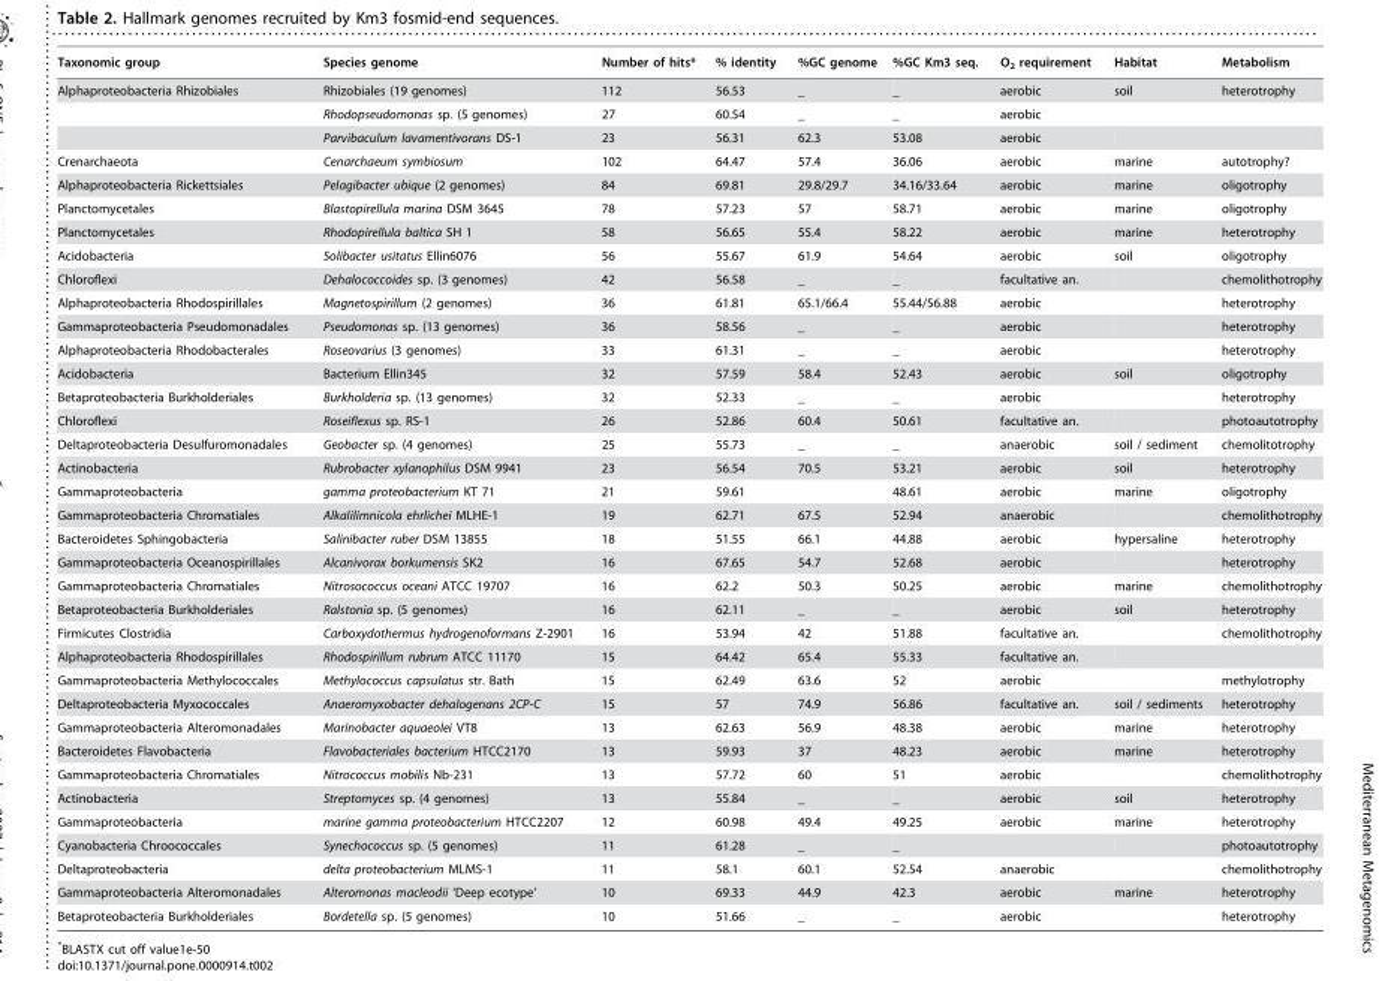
<table><thead><tr><td>Taxonomic group</td><td>Species genome</td><td>Number of hits*</td><td>% identity</td><td>%GC genome</td><td>%GC Km3 seq.</td><td>O<sub>2</sub> requirement</td><td>Habitat</td><td>Metabolism</td></tr></thead><tbody><tr><td rowspan="3">Alphaproteobacteria Rhizobiales</td><td>Rhizobiales (19 genomes)</td><td>112</td><td>56.53</td><td>_</td><td>_</td><td>aerobic</td><td>soil</td><td>heterotrophy</td></tr><tr><td>Rhodopseudomonas sp. (5 genomes)</td><td>27</td><td>60.54</td><td>_</td><td>_</td><td>aerobic</td><td></td><td></td></tr><tr><td>Parvibaculum lavamentivorans DS-1</td><td>23</td><td>56.31</td><td>62.3</td><td>53.08</td><td>aerobic</td><td></td><td></td></tr><tr><td>Crenarchaeota</td><td>Cenarchaeum symbiosum</td><td>102</td><td>64.47</td><td>57.4</td><td>36.06</td><td>aerobic</td><td>marine</td><td>autotrophy?</td></tr><tr><td>Alphaproteobacteria Rickettsiales</td><td>Pelagibacter ubique (2 genomes)</td><td>84</td><td>69.81</td><td>29.8/29.7</td><td>34.16/33.64</td><td>aerobic</td><td>marine</td><td>oligotrophy</td></tr><tr><td>Planctomycetales</td><td>Blastopirellula marina DSM 3645</td><td>78</td><td>57.23</td><td>57</td><td>58.71</td><td>aerobic</td><td>marine</td><td>oligotrophy</td></tr><tr><td>Planctomycetales</td><td>Rhodopirellula baltica SH 1</td><td>58</td><td>56.65</td><td>55.4</td><td>58.22</td><td>aerobic</td><td>marine</td><td>heterotrophy</td></tr><tr><td>Acidobacteria</td><td>Solibacter usitatus Ellin6076</td><td>56</td><td>55.67</td><td>61.9</td><td>54.64</td><td>aerobic</td><td>soil</td><td>oligotrophy</td></tr><tr><td>Chloroflexi</td><td>Dehalococcoides sp. (3 genomes)</td><td>42</td><td>56.58</td><td>_</td><td>_</td><td>facultative an.</td><td></td><td>chemolithotrophy</td></tr><tr><td>Alphaproteobacteria Rhodospirillales</td><td>Magnetospirillum (2 genomes)</td><td>36</td><td>61.81</td><td>65.1/66.4</td><td>55.44/56.88</td><td>aerobic</td><td></td><td>heterotrophy</td></tr><tr><td>Gammaproteobacteria Pseudomonadales</td><td>Pseudomonas sp. (13 genomes)</td><td>36</td><td>58.56</td><td>_</td><td>_</td><td>aerobic</td><td></td><td>heterotrophy</td></tr><tr><td>Alphaproteobacteria Rhodobacterales</td><td>Roseovarius (3 genomes)</td><td>33</td><td>61.31</td><td>_</td><td>_</td><td>aerobic</td><td></td><td>heterotrophy</td></tr><tr><td>Acidobacteria</td><td>Bacterium Ellin345</td><td>32</td><td>57.59</td><td>58.4</td><td>52.43</td><td>aerobic</td><td>soil</td><td>oligotrophy</td></tr><tr><td>Betaproteobacteria Burkholderiales</td><td>Burkholderia sp. (13 genomes)</td><td>32</td><td>52.33</td><td>_</td><td>_</td><td>aerobic</td><td></td><td>heterotrophy</td></tr><tr><td>Chloroflexi</td><td>Roseiflexus sp. RS-1</td><td>26</td><td>52.86</td><td>60.4</td><td>50.61</td><td>facultative an.</td><td></td><td>photoautotrophy</td></tr><tr><td>Deltaproteobacteria Desulfuromonadales</td><td>Geobacter sp. (4 genomes)</td><td>25</td><td>55.73</td><td>_</td><td>_</td><td>anaerobic</td><td>soil / sediment</td><td>chemolitotrophy</td></tr><tr><td>Actinobacteria</td><td>Rubrobacter xylanophilus DSM 9941</td><td>23</td><td>56.54</td><td>70.5</td><td>53.21</td><td>aerobic</td><td>soil</td><td>heterotrophy</td></tr><tr><td>Gammaproteobacteria</td><td>gamma proteobacterium KT 71</td><td>21</td><td>59.61</td><td></td><td>48.61</td><td>aerobic</td><td>marine</td><td>oligotrophy</td></tr><tr><td>Gammaproteobacteria Chromatiales</td><td>Alkalilimnicola ehrlichei MLHE-1</td><td>19</td><td>62.71</td><td>67.5</td><td>52.94</td><td>anaerobic</td><td></td><td>chemolithotrophy</td></tr><tr><td>Bacteroidetes Sphingobacteria</td><td>Salinibacter ruber DSM 13855</td><td>18</td><td>51.55</td><td>66.1</td><td>44.88</td><td>aerobic</td><td>hypersaline</td><td>heterotrophy</td></tr><tr><td>Gammaproteobacteria Oceanospirillales</td><td>Alcanivorax borkumensis SK2</td><td>16</td><td>67.65</td><td>54.7</td><td>52.68</td><td>aerobic</td><td></td><td>heterotrophy</td></tr><tr><td>Gammaproteobacteria Chromatiales</td><td>Nitrosococcus oceani ATCC 19707</td><td>16</td><td>62.2</td><td>50.3</td><td>50.25</td><td>aerobic</td><td>marine</td><td>chemolithotrophy</td></tr><tr><td>Betaproteobacteria Burkholderiales</td><td>Ralstonia sp. (5 genomes)</td><td>16</td><td>62.11</td><td>_</td><td>_</td><td>aerobic</td><td>soil</td><td>heterotrophy</td></tr><tr><td>Firmicutes Clostridia</td><td>Carboxydothermus hydrogenoformans Z-2901</td><td>16</td><td>53.94</td><td>42</td><td>51.88</td><td>facultative an.</td><td></td><td>chemolithotrophy</td></tr><tr><td>Alphaproteobacteria Rhodospirillales</td><td>Rhodospirillum rubrum ATCC 11170</td><td>15</td><td>64.42</td><td>65.4</td><td>55.33</td><td>facultative an.</td><td></td><td></td></tr><tr><td>Gammaproteobacteria Methylococcales</td><td>Methylococcus capsulatus str. Bath</td><td>15</td><td>62.49</td><td>63.6</td><td>52</td><td>aerobic</td><td></td><td>methylotrophy</td></tr><tr><td>Deltaproteobacteria Myxococcales</td><td>Anaeromyxobacter dehalogenans 2CP-C</td><td>15</td><td>57</td><td>74.9</td><td>56.86</td><td>facultative an.</td><td>soil / sediments</td><td>heterotrophy</td></tr><tr><td>Gammaproteobacteria Alteromonadales</td><td>Marinobacter aquaeolei VT8</td><td>13</td><td>62.63</td><td>56.9</td><td>48.38</td><td>aerobic</td><td>marine</td><td>heterotrophy</td></tr><tr><td>Bacteroidetes Flavobacteria</td><td>Flavobacteriales bacterium HTCC2170</td><td>13</td><td>59.93</td><td>37</td><td>48.23</td><td>aerobic</td><td>marine</td><td>heterotrophy</td></tr><tr><td>Gammaproteobacteria Chromatiales</td><td>Nitrococcus mobilis Nb-231</td><td>13</td><td>57.72</td><td>60</td><td>51</td><td>aerobic</td><td></td><td>chemolithotrophy</td></tr><tr><td>Actinobacteria</td><td>Streptomyces sp. (4 genomes)</td><td>13</td><td>55.84</td><td>_</td><td>_</td><td>aerobic</td><td>soil</td><td>heterotrophy</td></tr><tr><td>Gammaproteobacteria</td><td>marine gamma proteobacterium HTCC2207</td><td>12</td><td>60.98</td><td>49.4</td><td>49.25</td><td>aerobic</td><td>marine</td><td>heterotrophy</td></tr><tr><td>Cyanobacteria Chroococcales</td><td>Synechococcus sp. (5 genomes)</td><td>11</td><td>61.28</td><td>_</td><td>_</td><td></td><td></td><td>photoautotrophy</td></tr><tr><td>Deltaproteobacteria</td><td>delta proteobacterium MLMS-1</td><td>11</td><td>58.1</td><td>60.1</td><td>52.54</td><td>anaerobic</td><td></td><td>chemolithotrophy</td></tr><tr><td>Gammaproteobacteria Alteromonadales</td><td>Alteromonas macleodii ‘Deep ecotype’</td><td>10</td><td>69.33</td><td>44.9</td><td>42.3</td><td>aerobic</td><td>marine</td><td>heterotrophy</td></tr><tr><td>Betaproteobacteria Burkholderiales</td><td>Bordetella sp. (5 genomes)</td><td>10</td><td>51.66</td><td>_</td><td>_</td><td>aerobic</td><td></td><td>heterotrophy</td></tr></tbody></table>